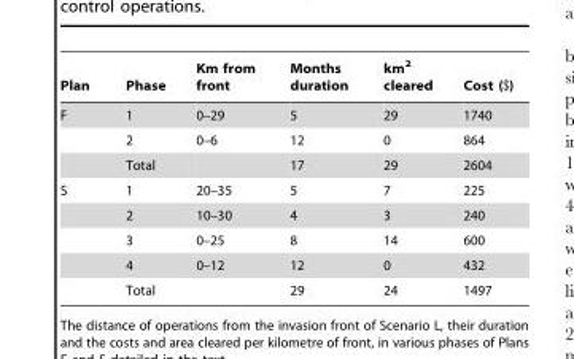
<table><thead><tr><td>Plan</td><td>Phase</td><td>Km from front</td><td>Months duration</td><td>km<sup>2</sup> cleared</td><td>Cost ($)</td></tr></thead><tbody><tr><td rowspan="3">F</td><td>1</td><td>0–29</td><td>5</td><td>29</td><td>1740</td></tr><tr><td>2</td><td>0–6</td><td>12</td><td>0</td><td>864</td></tr><tr><td>Total</td><td></td><td>17</td><td>29</td><td>2604</td></tr><tr><td rowspan="5">S</td><td>1</td><td>20–35</td><td>5</td><td>7</td><td>225</td></tr><tr><td>2</td><td>10–30</td><td>4</td><td>3</td><td>240</td></tr><tr><td>3</td><td>0–25</td><td>8</td><td>14</td><td>600</td></tr><tr><td>4</td><td>0–12</td><td>12</td><td>0</td><td>432</td></tr><tr><td>Total</td><td></td><td>29</td><td>24</td><td>1497</td></tr></tbody></table>